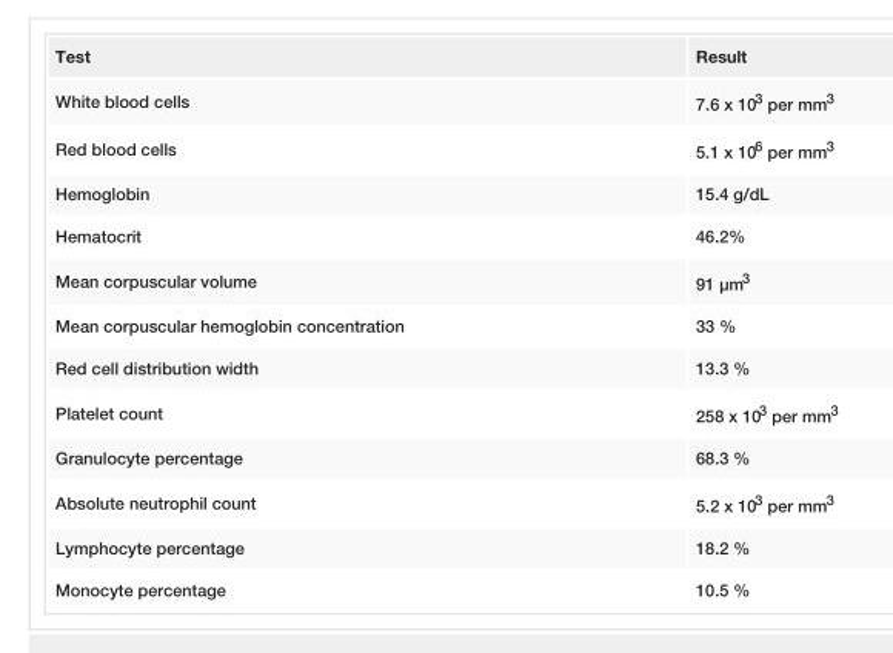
<table><tbody><tr><td>Test</td><td>Result</td></tr><tr><td>White blood cells</td><td>7.6 x 10<sup>3</sup> per mm<sup>3</sup></td></tr><tr><td>Red blood cells</td><td>5.1 x 10<sup>6</sup> per mm<sup>3</sup></td></tr><tr><td>Hemoglobin</td><td>15.4 g/dL</td></tr><tr><td>Hematocrit</td><td>46.2%</td></tr><tr><td>Mean corpuscular volume</td><td>91 µm<sup>3</sup></td></tr><tr><td>Mean corpuscular hemoglobin concentration</td><td>33 %</td></tr><tr><td>Red cell distribution width</td><td>13.3 %</td></tr><tr><td>Platelet count</td><td>258 x 10<sup>3</sup> per mm<sup>3</sup></td></tr><tr><td>Granulocyte percentage</td><td>68.3 %</td></tr><tr><td>Absolute neutrophil count</td><td>5.2 x 10<sup>3</sup> per mm<sup>3</sup></td></tr><tr><td>Lymphocyte percentage</td><td>18.2 %</td></tr><tr><td>Monocyte percentage</td><td>10.5 %</td></tr></tbody></table>